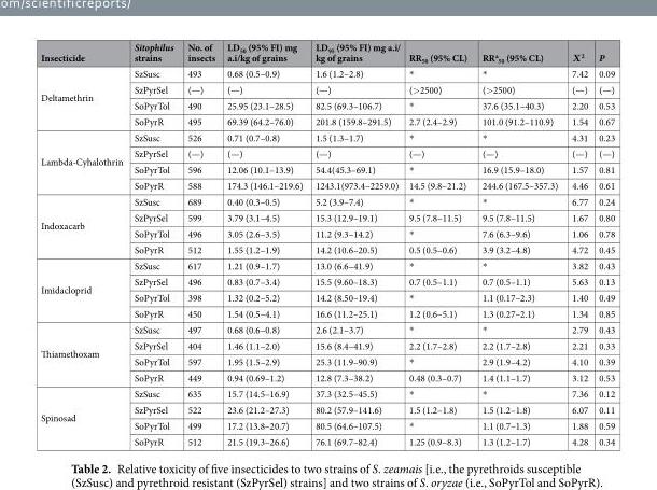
<table><thead><tr><td>Insecticide</td><td>Sitophilus strains</td><td>No. of insects</td><td>LD<sub>50</sub> (95% FI) mg a.i/kg of grains</td><td>LD<sub>95</sub> (95% FI) mg a.i/ kg of grains</td><td>RR<sub>50</sub> (95% CL)</td><td>RR<sup>a</sup> <sub>50</sub> (95% CL)</td><td>Χ<sup>2</sup></td><td>P</td></tr></thead><tbody><tr><td rowspan="4">Deltamethrin</td><td>SzSusc</td><td>493</td><td>0.68 (0.5–0.9)</td><td>1.6 (1.2–2.8)</td><td>*</td><td>*</td><td>7.42</td><td>0.09</td></tr><tr><td>SzPyrSel</td><td>(—)</td><td>(—)</td><td>(—)</td><td>(&gt;2500)</td><td>(&gt;2500)</td><td>(—)</td><td>(—)</td></tr><tr><td>SoPyrTol</td><td>490</td><td>25.95 (23.1–28.5)</td><td>82.5 (69.3–106.7)</td><td>*</td><td>37.6 (35.1–40.3)</td><td>2.20</td><td>0.53</td></tr><tr><td>SoPyrR</td><td>495</td><td>69.39 (64.2–76.0)</td><td>201.8 (159.8–291.5)</td><td>2.7 (2.4–2.9)</td><td>101.0 (91.2–110.9)</td><td>1.54</td><td>0.67</td></tr><tr><td rowspan="4">Lambda-Cyhalothrin</td><td>SzSusc</td><td>526</td><td>0.71 (0.7–0.8)</td><td>1.5 (1.3–1.7)</td><td>*</td><td>*</td><td>4.31</td><td>0.23</td></tr><tr><td>SzPyrSel</td><td>(—)</td><td>(—)</td><td>(—)</td><td>(—)</td><td>(—)</td><td>(—)</td><td>(—)</td></tr><tr><td>SoPyrTol</td><td>596</td><td>12.06 (10.1–13.9)</td><td>54.4(45.3–69.1)</td><td>*</td><td>16.9 (15.9–18.0)</td><td>1.57</td><td>0.81</td></tr><tr><td>SoPyrR</td><td>588</td><td>174.3 (146.1–219.6)</td><td>1243.1(973.4–2259.0)</td><td>14.5 (9.8–21.2)</td><td>244.6 (167.5–357.3)</td><td>4.46</td><td>0.61</td></tr><tr><td rowspan="4">Indoxacarb</td><td>SzSusc</td><td>689</td><td>0.40 (0.3–0.5)</td><td>5.2 (3.9–7.4)</td><td>*</td><td>*</td><td>6.77</td><td>0.24</td></tr><tr><td>SzPyrSel</td><td>599</td><td>3.79 (3.1–4.5)</td><td>15.3 (12.9–19.1)</td><td>9.5 (7.8–11.5)</td><td>9.5 (7.8–11.5)</td><td>1.67</td><td>0.80</td></tr><tr><td>SoPyrTol</td><td>496</td><td>3.05 (2.6–3.5)</td><td>11.2 (9.3–14.2)</td><td>*</td><td>7.6 (6.3–9.6)</td><td>1.06</td><td>0.78</td></tr><tr><td>SoPyrR</td><td>512</td><td>1.55 (1.2–1.9)</td><td>14.2 (10.6–20.5)</td><td>0.5 (0.5–0.6)</td><td>3.9 (3.2–4.8)</td><td>4.72</td><td>0.45</td></tr><tr><td rowspan="4">Imidacloprid</td><td>SzSusc</td><td>617</td><td>1.21 (0.9–1.7)</td><td>13.0 (6.6–41.9)</td><td>*</td><td>*</td><td>3.82</td><td>0.43</td></tr><tr><td>SzPyrSel</td><td>496</td><td>0.83 (0.7–3.4)</td><td>15.5 (9.60–18.3)</td><td>0.7 (0.5–1.1)</td><td>0.7 (0.5–1.1)</td><td>5.63</td><td>0.13</td></tr><tr><td>SoPyrTol</td><td>398</td><td>1.32 (0.2–5.2)</td><td>14.2 (8.50–19.4)</td><td>*</td><td>1.1 (0.17–2.3)</td><td>1.40</td><td>0.49</td></tr><tr><td>SoPyrR</td><td>450</td><td>1.54 (0.5–4.1)</td><td>16.6 (11.2–25.1)</td><td>1.2 (0.6–5.1)</td><td>1.3 (0.27–2.1)</td><td>1.34</td><td>0.85</td></tr><tr><td rowspan="4">Thiamethoxam</td><td>SzSusc</td><td>497</td><td>0.68 (0.6–0.8)</td><td>2.6 (2.1–3.7)</td><td>*</td><td>*</td><td>2.79</td><td>0.43</td></tr><tr><td>SzPyrSel</td><td>404</td><td>1.46 (1.1–2.0)</td><td>15.6 (8.4–41.9)</td><td>2.2 (1.7–2.8)</td><td>2.2 (1.7–2.8)</td><td>2.21</td><td>0.33</td></tr><tr><td>SoPyrTol</td><td>597</td><td>1.95 (1.5–2.9)</td><td>25.3 (11.9–90.9)</td><td>*</td><td>2.9 (1.9–4.2)</td><td>4.10</td><td>0.39</td></tr><tr><td>SoPyrR</td><td>449</td><td>0.94 (0.69–1.2)</td><td>12.8 (7.3–38.2)</td><td>0.48 (0.3–0.7)</td><td>1.4 (1.1–1.7)</td><td>3.12</td><td>0.53</td></tr><tr><td rowspan="4">Spinosad</td><td>SzSusc</td><td>635</td><td>15.7 (14.5–16.9)</td><td>37.3 (32.5–45.5)</td><td>*</td><td>*</td><td>7.36</td><td>0.12</td></tr><tr><td>SzPyrSel</td><td>522</td><td>23.6 (21.2–27.3)</td><td>80.2 (57.9–141.6)</td><td>1.5 (1.2–1.8)</td><td>1.5 (1.2–1.8)</td><td>6.07</td><td>0.11</td></tr><tr><td>SoPyrTol</td><td>499</td><td>17.2 (13.8–20.7)</td><td>80.5 (64.6–107.5)</td><td>*</td><td>1.1 (0.7–1.3)</td><td>1.88</td><td>0.59</td></tr><tr><td>SoPyrR</td><td>512</td><td>21.5 (19.3–26.6)</td><td>76.1 (69.7–82.4)</td><td>1.25 (0.9–8.3)</td><td>1.3 (1.2–1.7)</td><td>4.28</td><td>0.34</td></tr></tbody></table>